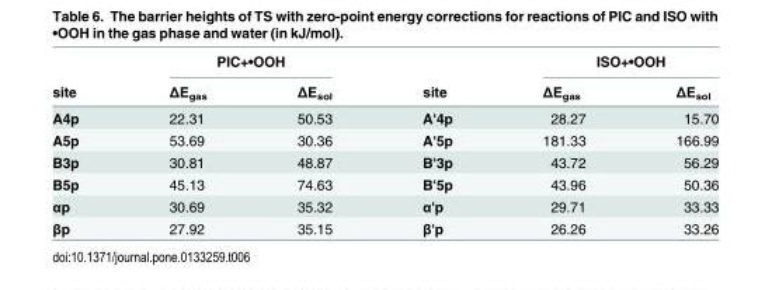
<table><thead><tr><td rowspan="2">site</td><td colspan="2">PIC+•OOH</td><td rowspan="2">site</td><td colspan="2">ISO+•OOH</td></tr><tr><td>ΔE<sub>gas</sub></td><td>ΔE<sub>sol</sub></td><td>ΔE<sub>gas</sub></td><td>ΔE<sub>sol</sub></td></tr></thead><tbody><tr><td>A4p</td><td>22.31</td><td>50.53</td><td>A&#x27;4p</td><td>28.27</td><td>15.70</td></tr><tr><td>A5p</td><td>53.69</td><td>30.36</td><td>A&#x27;5p</td><td>181.33</td><td>166.99</td></tr><tr><td>B3p</td><td>30.81</td><td>48.87</td><td>B&#x27;3p</td><td>43.72</td><td>56.29</td></tr><tr><td>B5p</td><td>45.13</td><td>74.63</td><td>B&#x27;5p</td><td>43.96</td><td>50.36</td></tr><tr><td>αp</td><td>30.69</td><td>35.32</td><td>α&#x27;p</td><td>29.71</td><td>33.33</td></tr><tr><td>βp</td><td>27.92</td><td>35.15</td><td>β&#x27;p</td><td>26.26</td><td>33.26</td></tr></tbody></table>